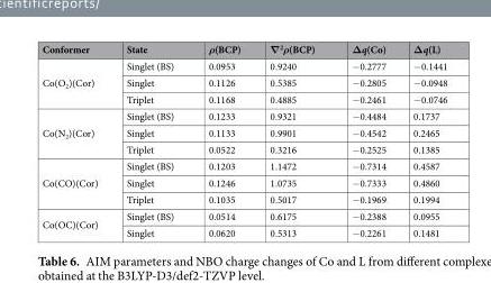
<table><thead><tr><td>Conformer</td><td>State</td><td>ρ(BCP)</td><td>∇<sup>2</sup>ρ(BCP)</td><td>Δq(Co)</td><td>Δq(L)</td></tr></thead><tbody><tr><td rowspan="3">Co(O<sub>2</sub>)(Cor)</td><td>Singlet (BS)</td><td>0.0953</td><td>0.9240</td><td>−0.2777</td><td>−0.1441</td></tr><tr><td>Singlet</td><td>0.1126</td><td>0.5385</td><td>−0.2805</td><td>−0.0948</td></tr><tr><td>Triplet</td><td>0.1168</td><td>0.4885</td><td>−0.2461</td><td>−0.0746</td></tr><tr><td rowspan="3">Co(N<sub>2</sub>)(Cor)</td><td>Singlet (BS)</td><td>0.1233</td><td>0.9321</td><td>−0.4484</td><td>0.1737</td></tr><tr><td>Singlet</td><td>0.1133</td><td>0.9901</td><td>−0.4542</td><td>0.2465</td></tr><tr><td>Triplet</td><td>0.0522</td><td>0.3216</td><td>−0.2525</td><td>0.1385</td></tr><tr><td rowspan="3">Co(CO)(Cor)</td><td>Singlet (BS)</td><td>0.1203</td><td>1.1472</td><td>−0.7314</td><td>0.4587</td></tr><tr><td>Singlet</td><td>0.1246</td><td>1.0735</td><td>−0.7333</td><td>0.4860</td></tr><tr><td>Triplet</td><td>0.1035</td><td>0.5017</td><td>−0.1969</td><td>0.1994</td></tr><tr><td rowspan="2">Co(OC)(Cor)</td><td>Singlet (BS)</td><td>0.0514</td><td>0.6175</td><td>−0.2388</td><td>0.0955</td></tr><tr><td>Singlet</td><td>0.0620</td><td>0.5313</td><td>−0.2261</td><td>0.1481</td></tr></tbody></table>